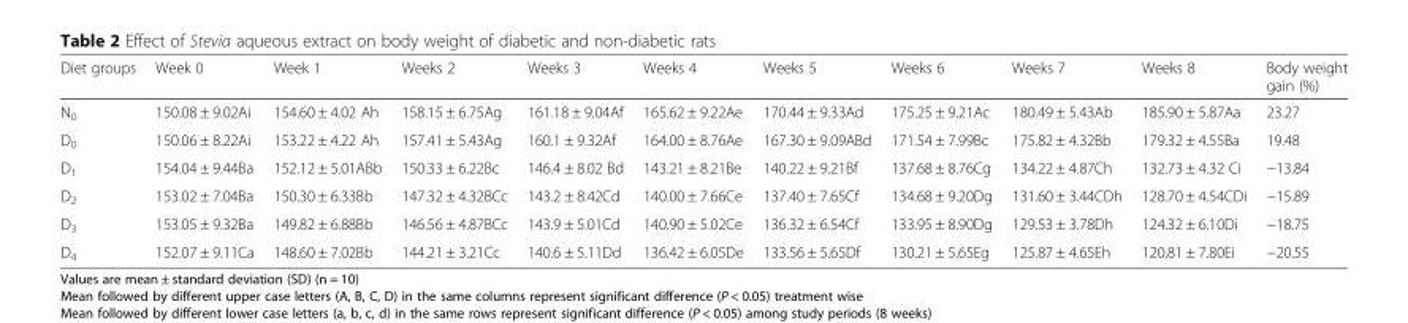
<table><thead><tr><td>Diet groups</td><td>Week 0</td><td>Week 1</td><td>Weeks 2</td><td>Weeks 3</td><td>Weeks 4</td><td>Weeks 5</td><td>Weeks 6</td><td>Weeks 7</td><td>Weeks 8</td><td>Body weight gain (%)</td></tr></thead><tbody><tr><td>N<sub>0</sub></td><td>150.08 ± 9.02Ai</td><td>154.60 ± 4.02 Ah</td><td>158.15 ± 6.75Ag</td><td>161.18 ± 9.04Af</td><td>165.62 ± 9.22Ae</td><td>170.44 ± 9.33Ad</td><td>175.25 ± 9.21Ac</td><td>180.49 ± 5.43Ab</td><td>185.90 ± 5.87Aa</td><td>23.27</td></tr><tr><td>D<sub>0</sub></td><td>150.06 ± 8.22Ai</td><td>153.22 ± 4.22 Ah</td><td>157.41 ± 5.43Ag</td><td>160.1 ± 9.32Af</td><td>164.00 ± 8.76Ae</td><td>167.30 ± 9.09ABd</td><td>171.54 ± 7.99Bc</td><td>175.82 ± 4.32Bb</td><td>179.32 ± 4.55Ba</td><td>19.48</td></tr><tr><td>D<sub>1</sub></td><td>154.04 ± 9.44Ba</td><td>152.12 ± 5.01ABb</td><td>150.33 ± 6.22Bc</td><td>146.4 ± 8.02 Bd</td><td>143.21 ± 8.21Be</td><td>140.22 ± 9.21Bf</td><td>137.68 ± 8.76Cg</td><td>134.22 ± 4.87Ch</td><td>132.73 ± 4.32 Ci</td><td>−13.84</td></tr><tr><td>D<sub>2</sub></td><td>153.02 ± 7.04Ba</td><td>150.30 ± 6.33Bb</td><td>147.32 ± 4.32BCc</td><td>143.2 ± 8.42Cd</td><td>140.00 ± 7.66Ce</td><td>137.40 ± 7.65Cf</td><td>134.68 ± 9.20Dg</td><td>131.60 ± 3.44CDh</td><td>128.70 ± 4.54CDi</td><td>−15.89</td></tr><tr><td>D<sub>3</sub></td><td>153.05 ± 9.32Ba</td><td>149.82 ± 6.88Bb</td><td>146.56 ± 4.87BCc</td><td>143.9 ± 5.01Cd</td><td>140.90 ± 5.02Ce</td><td>136.32 ± 6.54Cf</td><td>133.95 ± 8.90Dg</td><td>129.53 ± 3.78Dh</td><td>124.32 ± 6.10Di</td><td>−18.75</td></tr><tr><td>D<sub>4</sub></td><td>152.07 ± 9.11Ca</td><td>148.60 ± 7.02Bb</td><td>144.21 ± 3.21Cc</td><td>140.6 ± 5.11Dd</td><td>136.42 ± 6.05De</td><td>133.56 ± 5.65Df</td><td>130.21 ± 5.65Eg</td><td>125.87 ± 4.65Eh</td><td>120.81 ± 7.80Ei</td><td>−20.55</td></tr></tbody></table>